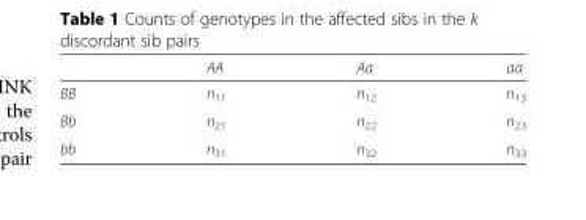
<table><thead><tr><td></td><td>AA</td><td>Aa</td><td>aa</td></tr></thead><tbody><tr><td>BB</td><td>n<sub>11</sub></td><td>n<sub>12</sub></td><td>n<sub>13</sub></td></tr><tr><td>Bb</td><td>n<sub>21</sub></td><td>n<sub>22</sub></td><td>n<sub>23</sub></td></tr><tr><td>bb</td><td>n<sub>31</sub></td><td>n<sub>32</sub></td><td>n<sub>33</sub></td></tr></tbody></table>